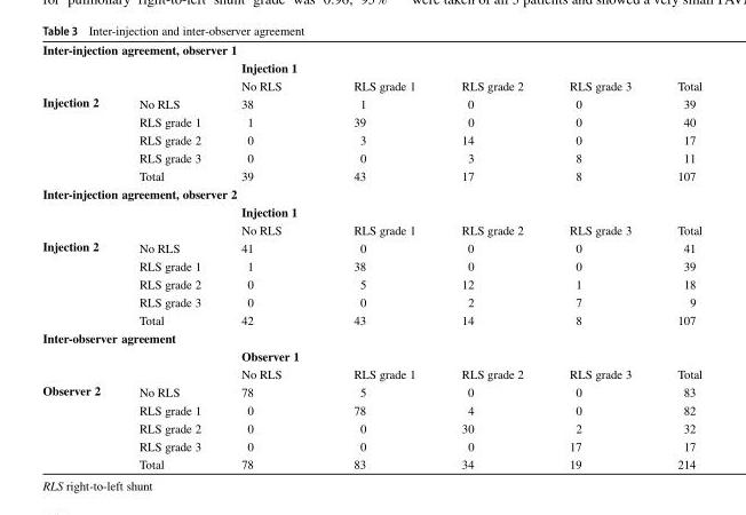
<table><tbody><tr><td colspan="7">Inter-injection agreement, observer 1</td></tr><tr><td rowspan="2" colspan="2"></td><td colspan="5">Injection 1</td></tr><tr><td>No RLS</td><td>RLS grade 1</td><td>RLS grade 2</td><td>RLS grade 3</td><td>Total</td></tr><tr><td rowspan="5">Injection 2</td><td>No RLS</td><td>38</td><td>1</td><td>0</td><td>0</td><td>39</td></tr><tr><td>RLS grade 1</td><td>1</td><td>39</td><td>0</td><td>0</td><td>40</td></tr><tr><td>RLS grade 2</td><td>0</td><td>3</td><td>14</td><td>0</td><td>17</td></tr><tr><td>RLS grade 3</td><td>0</td><td>0</td><td>3</td><td>8</td><td>11</td></tr><tr><td>Total</td><td>39</td><td>43</td><td>17</td><td>8</td><td>107</td></tr><tr><td colspan="7">Inter-injection agreement, observer 2</td></tr><tr><td rowspan="2" colspan="2"></td><td colspan="5">Injection 1</td></tr><tr><td>No RLS</td><td>RLS grade 1</td><td>RLS grade 2</td><td>RLS grade 3</td><td>Total</td></tr><tr><td rowspan="5">Injection 2</td><td>No RLS</td><td>41</td><td>0</td><td>0</td><td>0</td><td>41</td></tr><tr><td>RLS grade 1</td><td>1</td><td>38</td><td>0</td><td>0</td><td>39</td></tr><tr><td>RLS grade 2</td><td>0</td><td>5</td><td>12</td><td>1</td><td>18</td></tr><tr><td>RLS grade 3</td><td>0</td><td>0</td><td>2</td><td>7</td><td>9</td></tr><tr><td>Total</td><td>42</td><td>43</td><td>14</td><td>8</td><td>107</td></tr><tr><td colspan="7">Inter-observer agreement</td></tr><tr><td rowspan="2" colspan="2"></td><td colspan="5">Observer 1</td></tr><tr><td>No RLS</td><td>RLS grade 1</td><td>RLS grade 2</td><td>RLS grade 3</td><td>Total</td></tr><tr><td rowspan="5">Observer 2</td><td>No RLS</td><td>78</td><td>5</td><td>0</td><td>0</td><td>83</td></tr><tr><td>RLS grade 1</td><td>0</td><td>78</td><td>4</td><td>0</td><td>82</td></tr><tr><td>RLS grade 2</td><td>0</td><td>0</td><td>30</td><td>2</td><td>32</td></tr><tr><td>RLS grade 3</td><td>0</td><td>0</td><td>0</td><td>17</td><td>17</td></tr><tr><td>Total</td><td>78</td><td>83</td><td>34</td><td>19</td><td>214</td></tr></tbody></table>